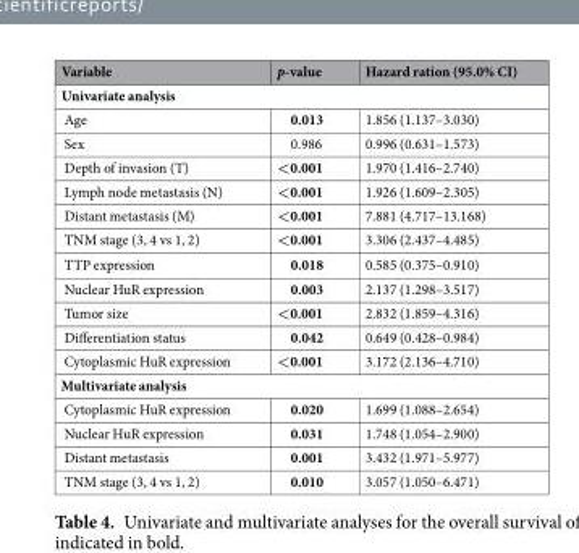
<table><thead><tr><td>Variable</td><td>p-value</td><td>Hazard ration (95.0% CI)</td></tr></thead><tbody><tr><td colspan="3">Univariate analysis</td></tr><tr><td>Age</td><td>0.013</td><td>1.856 (1.137–3.030)</td></tr><tr><td>Sex</td><td>0.986</td><td>0.996 (0.631–1.573)</td></tr><tr><td>Depth of invasion (T)</td><td>&lt;0.001</td><td>1.970 (1.416–2.740)</td></tr><tr><td>Lymph node metastasis (N)</td><td>&lt;0.001</td><td>1.926 (1.609–2.305)</td></tr><tr><td>Distant metastasis (M)</td><td>&lt;0.001</td><td>7.881 (4.717–13.168)</td></tr><tr><td>TNM stage (3, 4 vs 1, 2)</td><td>&lt;0.001</td><td>3.306 (2.437–4.485)</td></tr><tr><td>TTP expression</td><td>0.018</td><td>0.585 (0.375–0.910)</td></tr><tr><td>Nuclear HuR expression</td><td>0.003</td><td>2.137 (1.298–3.517)</td></tr><tr><td>Tumor size</td><td>&lt;0.001</td><td>2.832 (1.859–4.316)</td></tr><tr><td>Differentiation status</td><td>0.042</td><td>0.649 (0.428–0.984)</td></tr><tr><td>Cytoplasmic HuR expression</td><td>&lt;0.001</td><td>3.172 (2.136–4.710)</td></tr><tr><td colspan="3">Multivariate analysis</td></tr><tr><td>Cytoplasmic HuR expression</td><td>0.020</td><td>1.699 (1.088–2.654)</td></tr><tr><td>Nuclear HuR expression</td><td>0.031</td><td>1.748 (1.054–2.900)</td></tr><tr><td>Distant metastasis</td><td>0.001</td><td>3.432 (1.971–5.977)</td></tr><tr><td>TNM stage (3, 4 vs 1, 2)</td><td>0.010</td><td>3.057 (1.050–6.471)</td></tr></tbody></table>